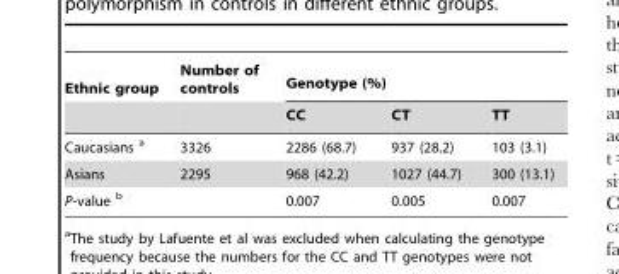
<table><thead><tr><td rowspan="2">Ethnic group</td><td rowspan="2">Number of controls</td><td colspan="3">Genotype (%)</td></tr><tr><td>CC</td><td>CT</td><td>TT</td></tr></thead><tbody><tr><td>Caucasians a</td><td>3326</td><td>2286 (68.7)</td><td>937 (28.2)</td><td>103 (3.1)</td></tr><tr><td>Asians</td><td>2295</td><td>968 (42.2)</td><td>1027 (44.7)</td><td>300 (13.1)</td></tr><tr><td>P-value b</td><td></td><td>0.007</td><td>0.005</td><td>0.007</td></tr></tbody></table>